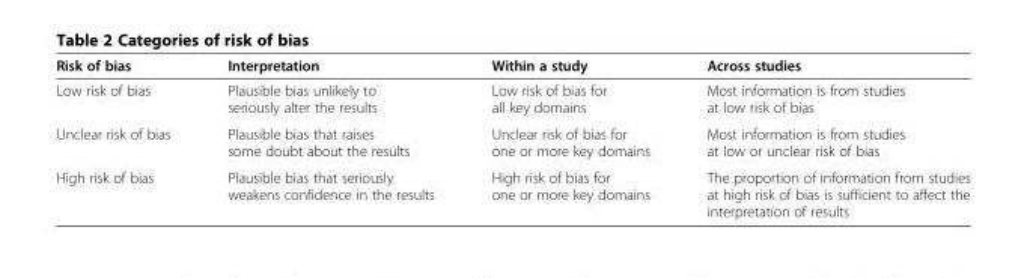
<table><thead><tr><td>Risk of bias</td><td>Interpretation</td><td>Within a study</td><td>Across studies</td></tr></thead><tbody><tr><td>Low risk of bias</td><td>Plausible bias unlikely to seriously alter the results</td><td>Low risk of bias for all key domains</td><td>Most information is from studies at low risk of bias</td></tr><tr><td>Unclear risk of bias</td><td>Plausible bias that raises some doubt about the results</td><td>Unclear risk of bias for one or more key domains</td><td>Most information is from studies at low or unclear risk of bias</td></tr><tr><td>High risk of bias</td><td>Plausible bias that seriously weakens confidence in the results</td><td>High risk of bias for one or more key domains</td><td>The proportion of information from studies at high risk of bias is sufficient to affect the interpretation of results</td></tr></tbody></table>